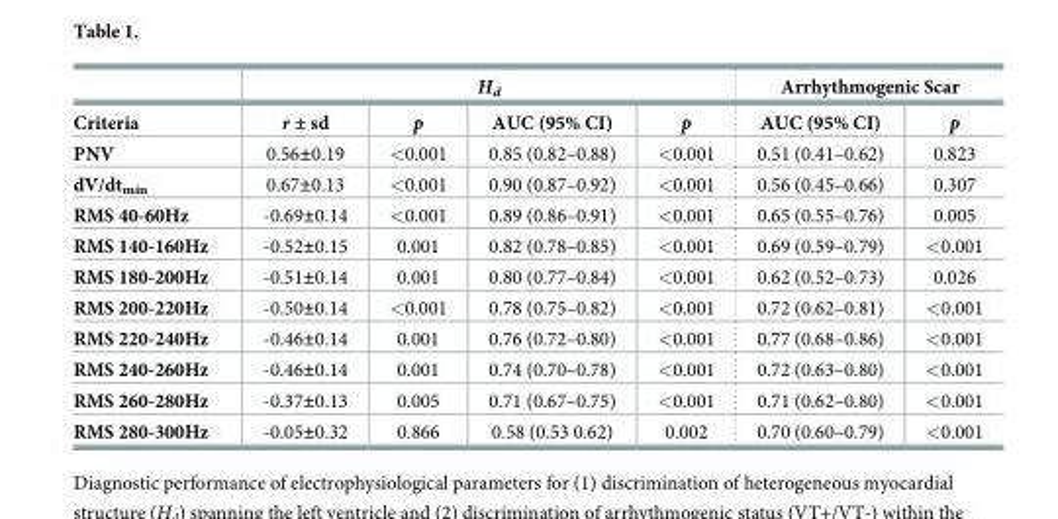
<table><thead><tr><td rowspan="2">Criteria</td><td colspan="4">H<sub>d</sub></td><td colspan="2">Arrhythmogenic Scar</td></tr><tr><td>r ± sd</td><td>p</td><td>AUC (95% CI)</td><td>p</td><td>AUC (95% CI)</td><td>p</td></tr></thead><tbody><tr><td>PNV</td><td>0.56±0.19</td><td>&lt;0.001</td><td>0.85 (0.82–0.88)</td><td>&lt;0.001</td><td>0.51 (0.41–0.62)</td><td>0.823</td></tr><tr><td>dV/dt<sub>min</sub></td><td>0.67±0.13</td><td>&lt;0.001</td><td>0.90 (0.87–0.92)</td><td>&lt;0.001</td><td>0.56 (0.45–0.66)</td><td>0.307</td></tr><tr><td>RMS 40-60Hz</td><td>-0.69±0.14</td><td>&lt;0.001</td><td>0.89 (0.86–0.91)</td><td>&lt;0.001</td><td>0.65 (0.55–0.76)</td><td>0.005</td></tr><tr><td>RMS 140-160Hz</td><td>-0.52±0.15</td><td>0.001</td><td>0.82 (0.78–0.85)</td><td>&lt;0.001</td><td>0.69 (0.59–0.79)</td><td>&lt;0.001</td></tr><tr><td>RMS 180-200Hz</td><td>-0.51±0.14</td><td>0.001</td><td>0.80 (0.77–0.84)</td><td>&lt;0.001</td><td>0.62 (0.52–0.73)</td><td>0.026</td></tr><tr><td>RMS 200-220Hz</td><td>-0.50±0.14</td><td>&lt;0.001</td><td>0.78 (0.75–0.82)</td><td>&lt;0.001</td><td>0.72 (0.62–0.81)</td><td>&lt;0.001</td></tr><tr><td>RMS 220-240Hz</td><td>-0.46±0.14</td><td>0.001</td><td>0.76 (0.72–0.80)</td><td>&lt;0.001</td><td>0.77 (0.68–0.86)</td><td>&lt;0.001</td></tr><tr><td>RMS 240-260Hz</td><td>-0.46±0.14</td><td>0.001</td><td>0.74 (0.70–0.78)</td><td>&lt;0.001</td><td>0.72 (0.63–0.80)</td><td>&lt;0.001</td></tr><tr><td>RMS 260-280Hz</td><td>-0.37±0.13</td><td>0.005</td><td>0.71 (0.67–0.75)</td><td>&lt;0.001</td><td>0.71 (0.62–0.80)</td><td>&lt;0.001</td></tr><tr><td>RMS 280-300Hz</td><td>-0.05±0.32</td><td>0.866</td><td>0.58 (0.53 0.62)</td><td>0.002</td><td>0.70 (0.60–0.79)</td><td>&lt;0.001</td></tr></tbody></table>